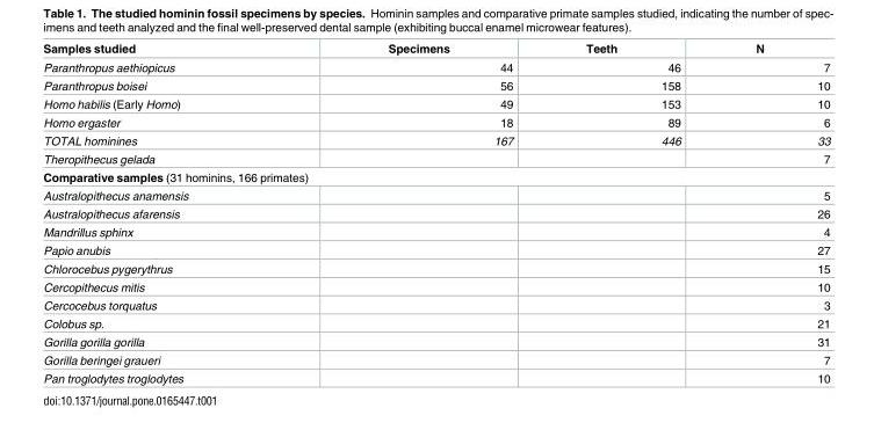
<table><thead><tr><td>Samples studied</td><td>Specimens</td><td>Teeth</td><td>N</td></tr></thead><tbody><tr><td>Paranthropus aethiopicus</td><td>44</td><td>46</td><td>7</td></tr><tr><td>Paranthropus boisei</td><td>56</td><td>158</td><td>10</td></tr><tr><td>Homo habilis (Early Homo)</td><td>49</td><td>153</td><td>10</td></tr><tr><td>Homo ergaster</td><td>18</td><td>89</td><td>6</td></tr><tr><td>TOTAL hominines</td><td>167</td><td>446</td><td>33</td></tr><tr><td>Theropithecus gelada</td><td></td><td></td><td>7</td></tr><tr><td colspan="4">Comparative samples (31 hominins, 166 primates)</td></tr><tr><td>Australopithecus anamensis</td><td></td><td></td><td>5</td></tr><tr><td>Australopithecus afarensis</td><td></td><td></td><td>26</td></tr><tr><td>Mandrillus sphinx</td><td></td><td></td><td>4</td></tr><tr><td>Papio anubis</td><td></td><td></td><td>27</td></tr><tr><td>Chlorocebus pygerythrus</td><td></td><td></td><td>15</td></tr><tr><td>Cercopithecus mitis</td><td></td><td></td><td>10</td></tr><tr><td>Cercocebus torquatus</td><td></td><td></td><td>3</td></tr><tr><td>Colobus sp.</td><td></td><td></td><td>21</td></tr><tr><td>Gorilla gorilla gorilla</td><td></td><td></td><td>31</td></tr><tr><td>Gorilla beringei graueri</td><td></td><td></td><td>7</td></tr><tr><td>Pan troglodytes troglodytes</td><td></td><td></td><td>10</td></tr></tbody></table>